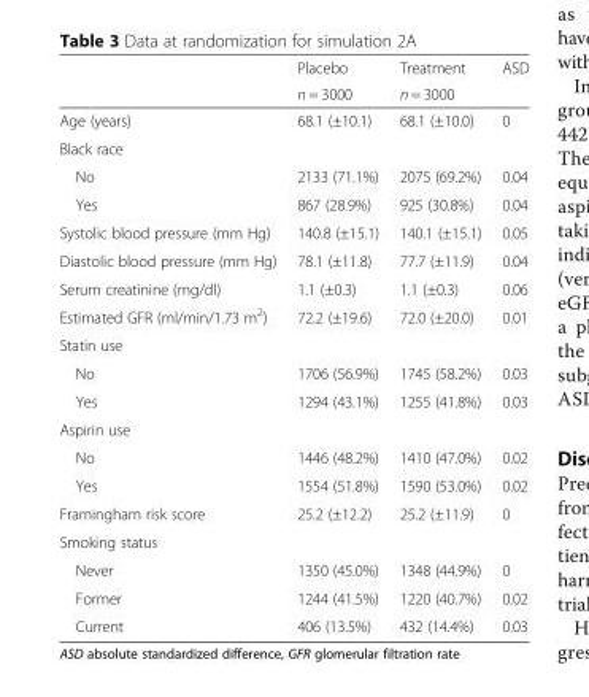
<table><thead><tr><td rowspan="2"></td><td rowspan="2">Placebo n = 3000</td><td rowspan="2">Treatment n = 3000</td><td rowspan="2">ASD</td></tr><tr></tr></thead><tbody><tr><td>Age (years)</td><td>68.1 (±10.1)</td><td>68.1 (±10.0)</td><td>0</td></tr><tr><td colspan="4">Black race</td></tr><tr><td>No</td><td>2133 (71.1%)</td><td>2075 (69.2%)</td><td>0.04</td></tr><tr><td>Yes</td><td>867 (28.9%)</td><td>925 (30.8%)</td><td>0.04</td></tr><tr><td>Systolic blood pressure (mm Hg)</td><td>140.8 (±15.1)</td><td>140.1 (±15.1)</td><td>0.05</td></tr><tr><td>Diastolic blood pressure (mm Hg)</td><td>78.1 (±11.8)</td><td>77.7 (±11.9)</td><td>0.04</td></tr><tr><td>Serum creatinine (mg/dl)</td><td>1.1 (±0.3)</td><td>1.1 (±0.3)</td><td>0.06</td></tr><tr><td>Estimated GFR (ml/min/1.73 m<sup>2</sup>)</td><td>72.2 (±19.6)</td><td>72.0 (±20.0)</td><td>0.01</td></tr><tr><td colspan="4">Statin use</td></tr><tr><td>No</td><td>1706 (56.9%)</td><td>1745 (58.2%)</td><td>0.03</td></tr><tr><td>Yes</td><td>1294 (43.1%)</td><td>1255 (41.8%)</td><td>0.03</td></tr><tr><td colspan="4">Aspirin use</td></tr><tr><td>No</td><td>1446 (48.2%)</td><td>1410 (47.0%)</td><td>0.02</td></tr><tr><td>Yes</td><td>1554 (51.8%)</td><td>1590 (53.0%)</td><td>0.02</td></tr><tr><td>Framingham risk score</td><td>25.2 (±12.2)</td><td>25.2 (±11.9)</td><td>0</td></tr><tr><td colspan="4">Smoking status</td></tr><tr><td>Never</td><td>1350 (45.0%)</td><td>1348 (44.9%)</td><td>0</td></tr><tr><td>Former</td><td>1244 (41.5%)</td><td>1220 (40.7%)</td><td>0.02</td></tr><tr><td>Current</td><td>406 (13.5%)</td><td>432 (14.4%)</td><td>0.03</td></tr></tbody></table>